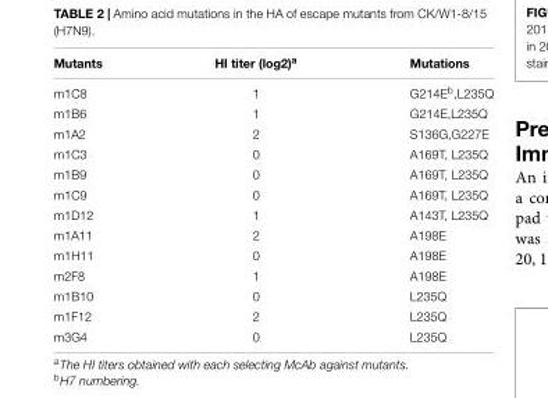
<table><thead><tr><td>Mutants</td><td>HI titer (log2)<sup>a</sup></td><td>Mutations</td></tr></thead><tbody><tr><td>m1C8</td><td>1</td><td>G214E<sup>b</sup>,L235Q</td></tr><tr><td>m1B6</td><td>1</td><td>G214E,L235Q</td></tr><tr><td>m1A2</td><td>2</td><td>S136G,G227E</td></tr><tr><td>m1C3</td><td>0</td><td>A169T, L235Q</td></tr><tr><td>m1B9</td><td>0</td><td>A169T, L235Q</td></tr><tr><td>m1C9</td><td>0</td><td>A169T, L235Q</td></tr><tr><td>m1D12</td><td>1</td><td>A143T, L235Q</td></tr><tr><td>m1A11</td><td>2</td><td>A198E</td></tr><tr><td>m1H11</td><td>0</td><td>A198E</td></tr><tr><td>m2F8</td><td>1</td><td>A198E</td></tr><tr><td>m1B10</td><td>0</td><td>L235Q</td></tr><tr><td>m1F12</td><td>2</td><td>L235Q</td></tr><tr><td>m3G4</td><td>0</td><td>L235Q</td></tr></tbody></table>